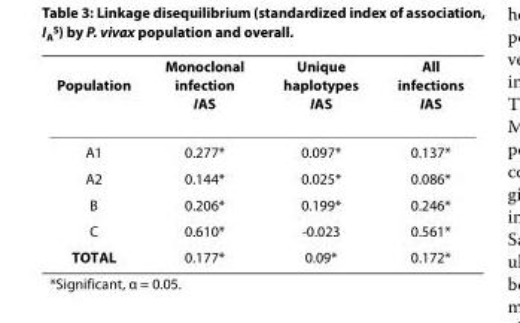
<table><thead><tr><td>Population</td><td>Monoclonal infection I<sub>A</sub><sup>S</sup></td><td>Unique haplotypes I<sub>A</sub><sup>S</sup></td><td>All infections I<sub>A</sub><sup>S</sup></td></tr></thead><tbody><tr><td>A1</td><td>0.277*</td><td>0.097*</td><td>0.137*</td></tr><tr><td>A2</td><td>0.144*</td><td>0.025*</td><td>0.086*</td></tr><tr><td>B</td><td>0.206*</td><td>0.199*</td><td>0.246*</td></tr><tr><td>C</td><td>0.610*</td><td>-0.023</td><td>0.561*</td></tr><tr><td>TOTAL</td><td>0.177*</td><td>0.09*</td><td>0.172*</td></tr></tbody></table>